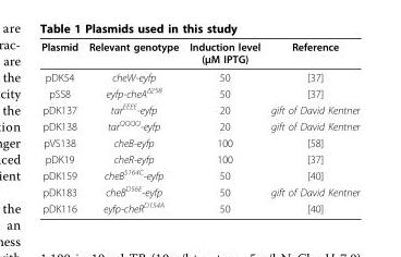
<table><thead><tr><td>Plasmid</td><td>Relevant genotype</td><td>Induction level (μM IPTG)</td><td>Reference</td></tr></thead><tbody><tr><td>pDK54</td><td>cheW-eyfp</td><td>50</td><td>[37]</td></tr><tr><td>pSS8</td><td>eyfp-cheA<sup>Δ258</sup></td><td>50</td><td>[37]</td></tr><tr><td>pDK137</td><td>tar<sup>EEEE</sup>-eyfp</td><td>20</td><td>gift of David Kentner</td></tr><tr><td>pDK138</td><td>tar<sup>QQQQ</sup>-eyfp</td><td>20</td><td>gift of David Kentner</td></tr><tr><td>pVS138</td><td>cheB-eyfp</td><td>100</td><td>[58]</td></tr><tr><td>pDK19</td><td>cheR-eyfp</td><td>100</td><td>[37]</td></tr><tr><td>pDK159</td><td>cheB<sup>S164C</sup>-eyfp</td><td>50</td><td>[40]</td></tr><tr><td>pDK183</td><td>cheB<sup>D56E</sup>-eyfp</td><td>50</td><td>gift of David Kentner</td></tr><tr><td>pDK116</td><td>eyfp-cheR<sup>D154A</sup></td><td>50</td><td>[40]</td></tr></tbody></table>